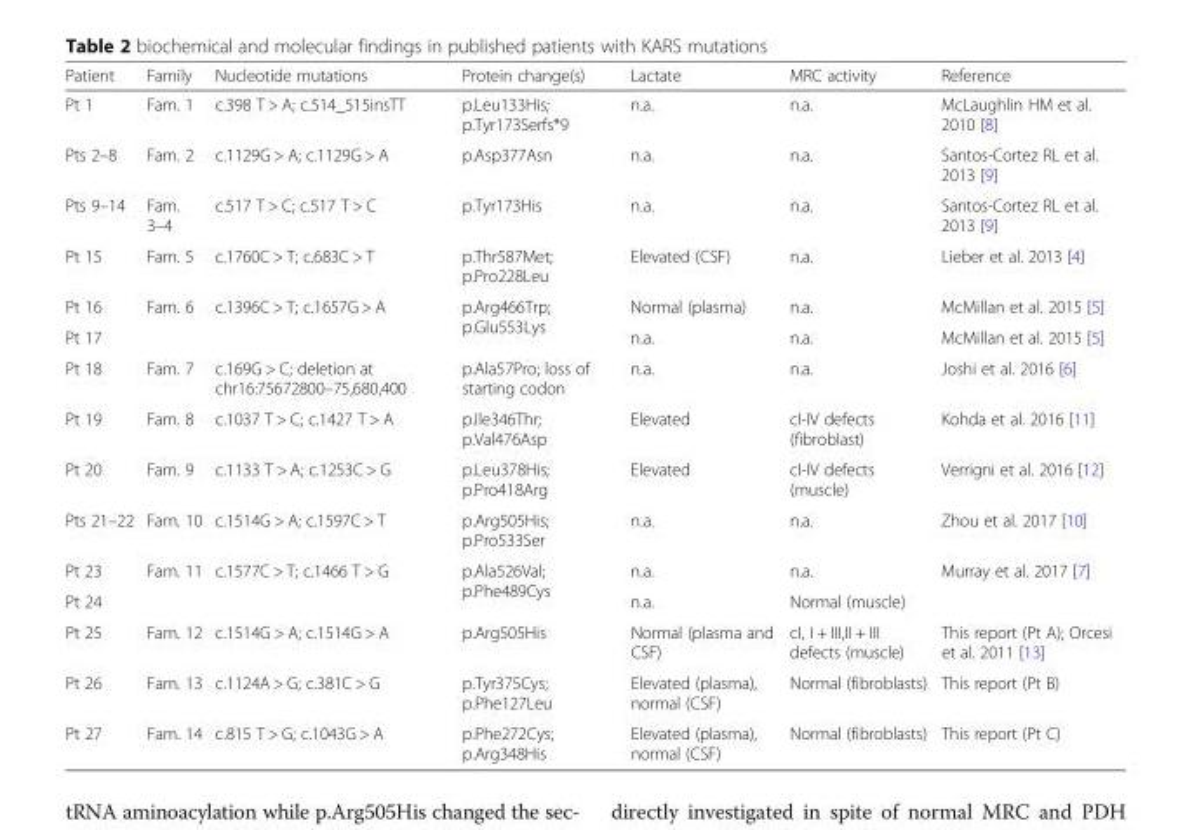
<table><thead><tr><td>Patient</td><td>Family</td><td>Nucleotide mutations</td><td>Protein change(s)</td><td>Lactate</td><td>MRC activity</td><td>Reference</td></tr></thead><tbody><tr><td>Pt 1</td><td>Fam. 1</td><td>c.398 T &gt; A; c.514_515insTT</td><td>p.Leu133His; p.Tyr173Serfs*9</td><td>n.a.</td><td>n.a.</td><td>McLaughlin HM et al. 2010 [8]</td></tr><tr><td>Pts 2–8</td><td>Fam. 2</td><td>c.1129G &gt; A; c.1129G &gt; A</td><td>p.Asp377Asn</td><td>n.a.</td><td>n.a.</td><td>Santos-Cortez RL et al. 2013 [9]</td></tr><tr><td>Pts 9–14</td><td>Fam. 3–4</td><td>c.517 T &gt; C; c.517 T &gt; C</td><td>p.Tyr173His</td><td>n.a.</td><td>n.a.</td><td>Santos-Cortez RL et al. 2013 [9]</td></tr><tr><td>Pt 15</td><td>Fam. 5</td><td>c.1760C &gt; T; c.683C &gt; T</td><td>p.Thr587Met; p.Pro228Leu</td><td>Elevated (CSF)</td><td>n.a.</td><td>Lieber et al. 2013 [4]</td></tr><tr><td>Pt 16</td><td rowspan="2">Fam. 6</td><td rowspan="2">c.1396C &gt; T; c.1657G &gt; A</td><td rowspan="2">p.Arg466Trp; p.Glu553Lys</td><td>Normal (plasma)</td><td>n.a.</td><td>McMillan et al. 2015 [5]</td></tr><tr><td>Pt 17</td><td>n.a.</td><td>n.a.</td><td>McMillan et al. 2015 [5]</td></tr><tr><td>Pt 18</td><td>Fam. 7</td><td>c.169G &gt; C; deletion at chr16:75672800–75,680,400</td><td>p.Ala57Pro; loss of starting codon</td><td>n.a.</td><td>n.a.</td><td>Joshi et al. 2016 [6]</td></tr><tr><td>Pt 19</td><td>Fam. 8</td><td>c.1037 T &gt; C; c.1427 T &gt; A</td><td>p.Ile346Thr; p.Val476Asp</td><td>Elevated</td><td>cI-IV defects (fibroblast)</td><td>Kohda et al. 2016 [11]</td></tr><tr><td>Pt 20</td><td>Fam. 9</td><td>c.1133 T &gt; A; c.1253C &gt; G</td><td>p.Leu378His; p.Pro418Arg</td><td>Elevated</td><td>cI-IV defects (muscle)</td><td>Verrigni et al. 2016 [12]</td></tr><tr><td>Pts 21–22</td><td>Fam. 10</td><td>c.1514G &gt; A; c.1597C &gt; T</td><td>p.Arg505His; p.Pro533Ser</td><td>n.a.</td><td>n.a.</td><td>Zhou et al. 2017 [10]</td></tr><tr><td>Pt 23</td><td rowspan="2">Fam. 11</td><td rowspan="2">c.1577C &gt; T; c.1466 T &gt; G</td><td rowspan="2">p.Ala526Val; p.Phe489Cys</td><td>n.a.</td><td>n.a.</td><td rowspan="2">Murray et al. 2017 [7]</td></tr><tr><td>Pt 24</td><td>n.a.</td><td>Normal (muscle)</td></tr><tr><td>Pt 25</td><td>Fam. 12</td><td>c.1514G &gt; A; c.1514G &gt; A</td><td>p.Arg505His</td><td>Normal (plasma and CSF)</td><td>cI, I + III,II + III defects (muscle)</td><td>This report (Pt A); Orcesi et al. 2011 [13]</td></tr><tr><td>Pt 26</td><td>Fam. 13</td><td>c.1124A &gt; G; c.381C &gt; G</td><td>p.Tyr375Cys; p.Phe127Leu</td><td>Elevated (plasma), normal (CSF)</td><td>Normal (fibroblasts)</td><td>This report (Pt B)</td></tr><tr><td>Pt 27</td><td>Fam. 14</td><td>c.815 T &gt; G; c.1043G &gt; A</td><td>p.Phe272Cys; p.Arg348His</td><td>Elevated (plasma), normal (CSF)</td><td>Normal (fibroblasts)</td><td>This report (Pt C)</td></tr></tbody></table>